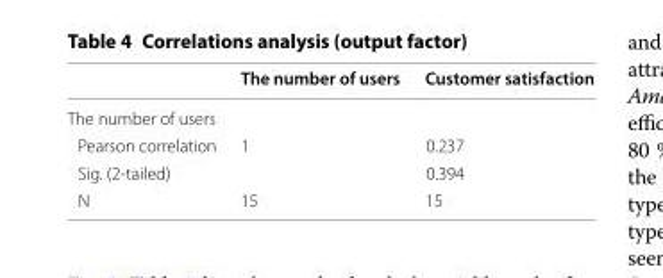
<table><thead><tr><td></td><td>The number of users</td><td>Customer satisfaction</td></tr></thead><tbody><tr><td colspan="3">The number of users</td></tr><tr><td>Pearson correlation</td><td>1</td><td>0.237</td></tr><tr><td>Sig. (2-tailed)</td><td></td><td>0.394</td></tr><tr><td>N</td><td>15</td><td>15</td></tr></tbody></table>